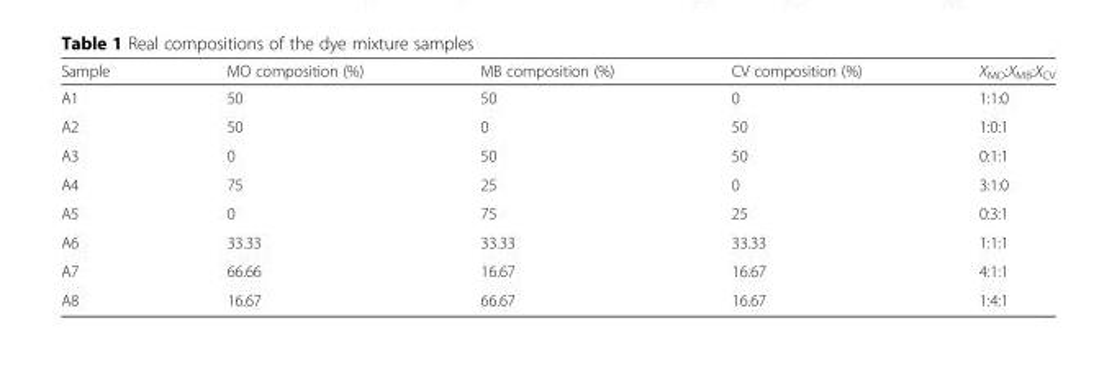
<table><thead><tr><td>Sample</td><td>MO composition (%)</td><td>MB composition (%)</td><td>CV composition (%)</td><td>X<sub>MO</sub>:X<sub>MB</sub>:X<sub>CV</sub></td></tr></thead><tbody><tr><td>A1</td><td>50</td><td>50</td><td>0</td><td>1:1:0</td></tr><tr><td>A2</td><td>50</td><td>0</td><td>50</td><td>1:0:1</td></tr><tr><td>A3</td><td>0</td><td>50</td><td>50</td><td>0:1:1</td></tr><tr><td>A4</td><td>75</td><td>25</td><td>0</td><td>3:1:0</td></tr><tr><td>A5</td><td>0</td><td>75</td><td>25</td><td>0:3:1</td></tr><tr><td>A6</td><td>33.33</td><td>33.33</td><td>33.33</td><td>1:1:1</td></tr><tr><td>A7</td><td>66.66</td><td>16.67</td><td>16.67</td><td>4:1:1</td></tr><tr><td>A8</td><td>16.67</td><td>66.67</td><td>16.67</td><td>1:4:1</td></tr></tbody></table>